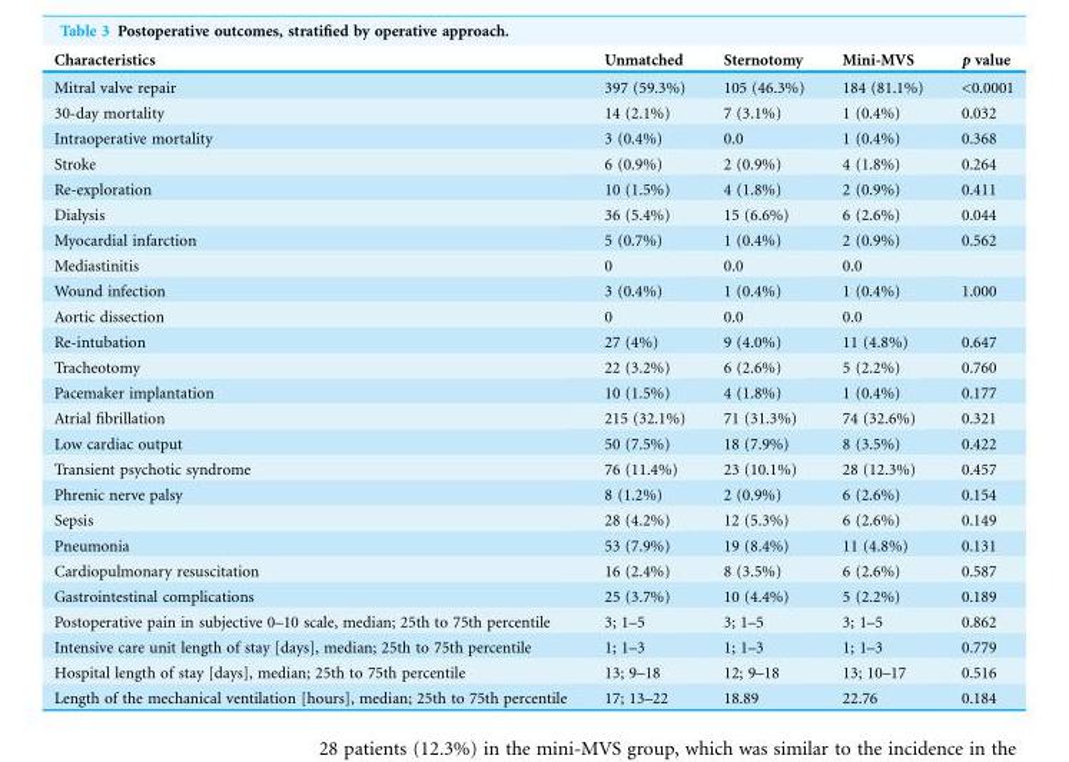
<table><thead><tr><td>Characteristics</td><td>Unmatched</td><td>Sternotomy</td><td>Mini-MVS</td><td>p value</td></tr></thead><tbody><tr><td>Mitral valve repair</td><td>397 (59.3%)</td><td>105 (46.3%)</td><td>184 (81.1%)</td><td>&lt;0.0001</td></tr><tr><td>30-day mortality</td><td>14 (2.1%)</td><td>7 (3.1%)</td><td>1 (0.4%)</td><td>0.032</td></tr><tr><td>Intraoperative mortality</td><td>3 (0.4%)</td><td>0.0</td><td>1 (0.4%)</td><td>0.368</td></tr><tr><td>Stroke</td><td>6 (0.9%)</td><td>2 (0.9%)</td><td>4 (1.8%)</td><td>0.264</td></tr><tr><td>Re-exploration</td><td>10 (1.5%)</td><td>4 (1.8%)</td><td>2 (0.9%)</td><td>0.411</td></tr><tr><td>Dialysis</td><td>36 (5.4%)</td><td>15 (6.6%)</td><td>6 (2.6%)</td><td>0.044</td></tr><tr><td>Myocardial infarction</td><td>5 (0.7%)</td><td>1 (0.4%)</td><td>2 (0.9%)</td><td>0.562</td></tr><tr><td>Mediastinitis</td><td>0</td><td>0.0</td><td>0.0</td><td></td></tr><tr><td>Wound infection</td><td>3 (0.4%)</td><td>1 (0.4%)</td><td>1 (0.4%)</td><td>1.000</td></tr><tr><td>Aortic dissection</td><td>0</td><td>0.0</td><td>0.0</td><td></td></tr><tr><td>Re-intubation</td><td>27 (4%)</td><td>9 (4.0%)</td><td>11 (4.8%)</td><td>0.647</td></tr><tr><td>Tracheotomy</td><td>22 (3.2%)</td><td>6 (2.6%)</td><td>5 (2.2%)</td><td>0.760</td></tr><tr><td>Pacemaker implantation</td><td>10 (1.5%)</td><td>4 (1.8%)</td><td>1 (0.4%)</td><td>0.177</td></tr><tr><td>Atrial fibrillation</td><td>215 (32.1%)</td><td>71 (31.3%)</td><td>74 (32.6%)</td><td>0.321</td></tr><tr><td>Low cardiac output</td><td>50 (7.5%)</td><td>18 (7.9%)</td><td>8 (3.5%)</td><td>0.422</td></tr><tr><td>Transient psychotic syndrome</td><td>76 (11.4%)</td><td>23 (10.1%)</td><td>28 (12.3%)</td><td>0.457</td></tr><tr><td>Phrenic nerve palsy</td><td>8 (1.2%)</td><td>2 (0.9%)</td><td>6 (2.6%)</td><td>0.154</td></tr><tr><td>Sepsis</td><td>28 (4.2%)</td><td>12 (5.3%)</td><td>6 (2.6%)</td><td>0.149</td></tr><tr><td>Pneumonia</td><td>53 (7.9%)</td><td>19 (8.4%)</td><td>11 (4.8%)</td><td>0.131</td></tr><tr><td>Cardiopulmonary resuscitation</td><td>16 (2.4%)</td><td>8 (3.5%)</td><td>6 (2.6%)</td><td>0.587</td></tr><tr><td>Gastrointestinal complications</td><td>25 (3.7%)</td><td>10 (4.4%)</td><td>5 (2.2%)</td><td>0.189</td></tr><tr><td>Postoperative pain in subjective 0–10 scale, median; 25th to 75th percentile</td><td>3; 1–5</td><td>3; 1–5</td><td>3; 1–5</td><td>0.862</td></tr><tr><td>Intensive care unit length of stay [days], median; 25th to 75th percentile</td><td>1; 1–3</td><td>1; 1–3</td><td>1; 1–3</td><td>0.779</td></tr><tr><td>Hospital length of stay [days], median; 25th to 75th percentile</td><td>13; 9–18</td><td>12; 9–18</td><td>13; 10–17</td><td>0.516</td></tr><tr><td>Length of the mechanical ventilation [hours], median; 25th to 75th percentile</td><td>17; 13–22</td><td>18.89</td><td>22.76</td><td>0.184</td></tr></tbody></table>